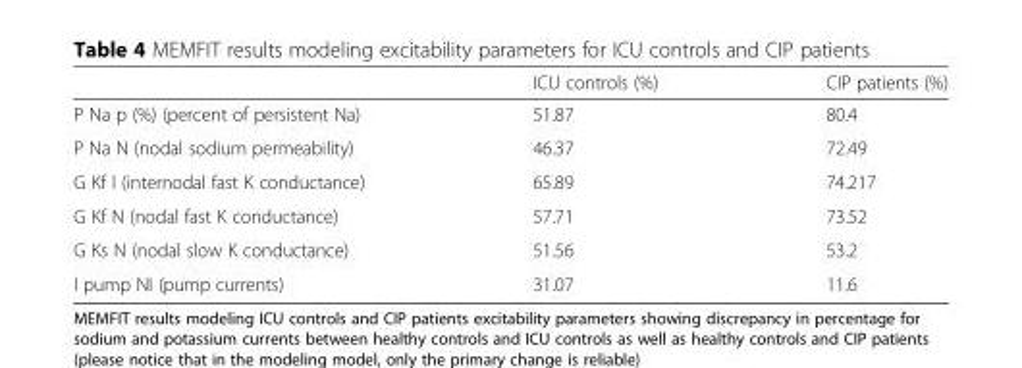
<table><thead><tr><td></td><td>ICU controls (%)</td><td>CIP patients (%)</td></tr></thead><tbody><tr><td>P Na p (%) (percent of persistent Na)</td><td>51.87</td><td>80.4</td></tr><tr><td>P Na N (nodal sodium permeability)</td><td>46.37</td><td>72.49</td></tr><tr><td>G Kf l (internodal fast K conductance)</td><td>65.89</td><td>74.217</td></tr><tr><td>G Kf N (nodal fast K conductance)</td><td>57.71</td><td>73.52</td></tr><tr><td>G Ks N (nodal slow K conductance)</td><td>51.56</td><td>53.2</td></tr><tr><td>I pump NI (pump currents)</td><td>31.07</td><td>11.6</td></tr></tbody></table>